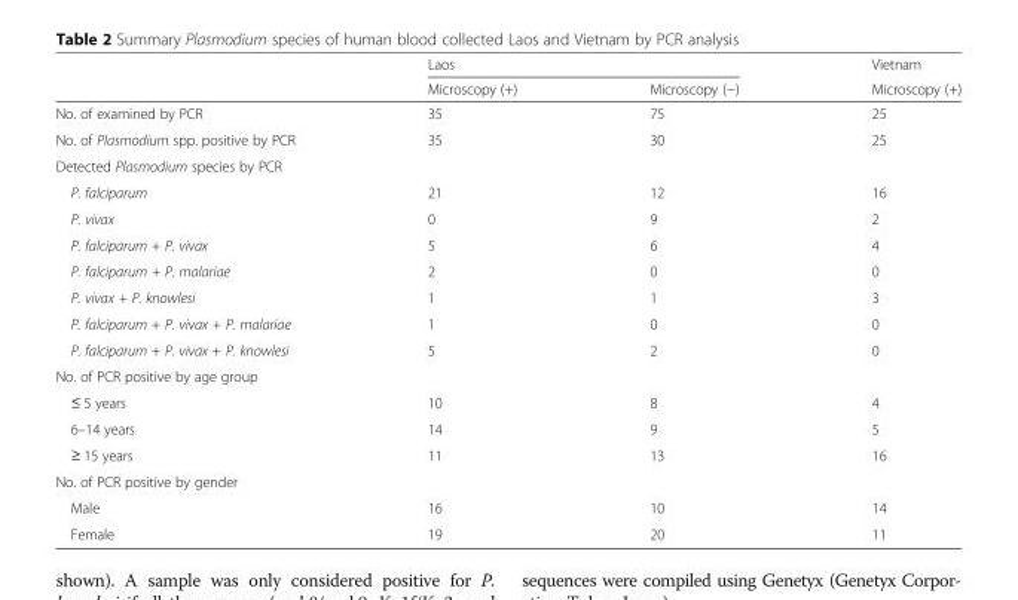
<table><thead><tr><td rowspan="2"></td><td colspan="2">Laos</td><td rowspan="2">Vietnam Microscopy (+)</td></tr><tr><td>Microscopy (+)</td><td>Microscopy (−)</td></tr></thead><tbody><tr><td>No. of examined by PCR</td><td>35</td><td>75</td><td>25</td></tr><tr><td>No. of Plasmodium spp. positive by PCR</td><td>35</td><td>30</td><td>25</td></tr><tr><td colspan="4">Detected Plasmodium species by PCR</td></tr><tr><td>P. falciparum</td><td>21</td><td>12</td><td>16</td></tr><tr><td>P. vivax</td><td>0</td><td>9</td><td>2</td></tr><tr><td>P. falciparum + P. vivax</td><td>5</td><td>6</td><td>4</td></tr><tr><td>P. falciparum + P. malariae</td><td>2</td><td>0</td><td>0</td></tr><tr><td>P. vivax + P. knowlesi</td><td>1</td><td>1</td><td>3</td></tr><tr><td>P. falciparum + P. vivax + P. malariae</td><td>1</td><td>0</td><td>0</td></tr><tr><td>P. falciparum + P. vivax + P. knowlesi</td><td>5</td><td>2</td><td>0</td></tr><tr><td colspan="4">No. of PCR positive by age group</td></tr><tr><td>≤ 5 years</td><td>10</td><td>8</td><td>4</td></tr><tr><td>6–14 years</td><td>14</td><td>9</td><td>5</td></tr><tr><td>≥ 15 years</td><td>11</td><td>13</td><td>16</td></tr><tr><td colspan="4">No. of PCR positive by gender</td></tr><tr><td>Male</td><td>16</td><td>10</td><td>14</td></tr><tr><td>Female</td><td>19</td><td>20</td><td>11</td></tr></tbody></table>